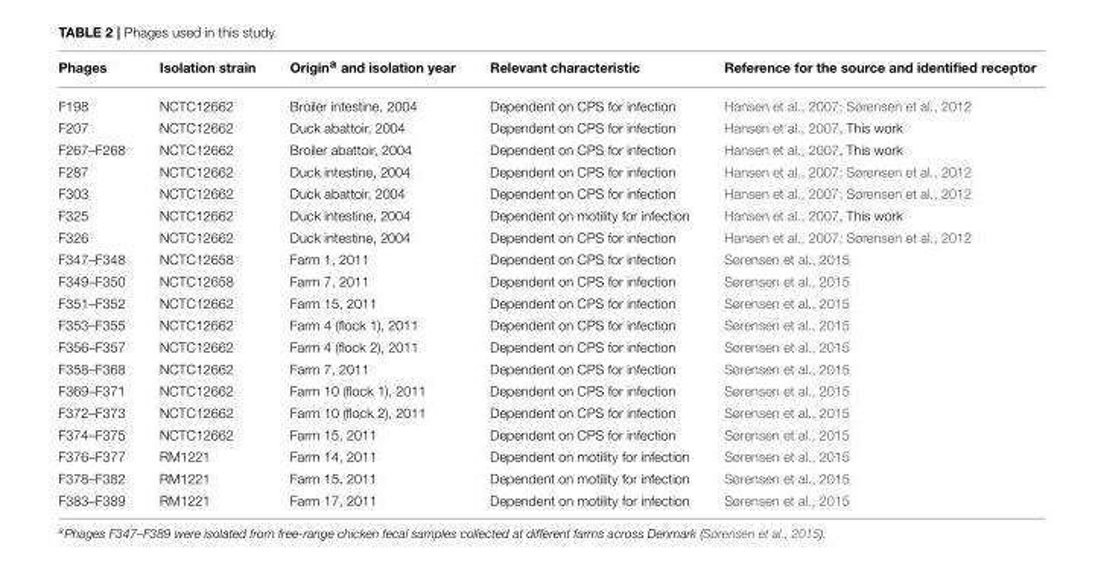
<table><thead><tr><td>Phages</td><td>Isolation strain</td><td>Origin<sup>a</sup> and isolation year</td><td>Relevant characteristic</td><td>Reference for the source and identified receptor</td></tr></thead><tbody><tr><td>F198</td><td>NCTC12662</td><td>Broiler intestine, 2004</td><td>Dependent on CPS for infection</td><td>Hansen et al., 2007; Sørensen et al., 2012</td></tr><tr><td>F207</td><td>NCTC12662</td><td>Duck abattoir, 2004</td><td>Dependent on CPS for infection</td><td>Hansen et al., 2007, This work</td></tr><tr><td>F267–F268</td><td>NCTC12662</td><td>Broiler abattoir, 2004</td><td>Dependent on CPS for infection</td><td>Hansen et al., 2007, This work</td></tr><tr><td>F287</td><td>NCTC12662</td><td>Duck intestine, 2004</td><td>Dependent on CPS for infection</td><td>Hansen et al., 2007; Sørensen et al., 2012</td></tr><tr><td>F303</td><td>NCTC12662</td><td>Duck abattoir, 2004</td><td>Dependent on CPS for infection</td><td>Hansen et al., 2007; Sørensen et al., 2012</td></tr><tr><td>F325</td><td>NCTC12662</td><td>Duck intestine, 2004</td><td>Dependent on motility for infection</td><td>Hansen et al., 2007, This work</td></tr><tr><td>F326</td><td>NCTC12662</td><td>Duck intestine, 2004</td><td>Dependent on CPS for infection</td><td>Hansen et al., 2007; Sørensen et al., 2012</td></tr><tr><td>F347–F348</td><td>NCTC12658</td><td>Farm 1, 2011</td><td>Dependent on CPS for infection</td><td>Sørensen et al., 2015</td></tr><tr><td>F349–F350</td><td>NCTC12658</td><td>Farm 7, 2011</td><td>Dependent on CPS for infection</td><td>Sørensen et al., 2015</td></tr><tr><td>F351–F352</td><td>NCTC12662</td><td>Farm 15, 2011</td><td>Dependent on CPS for infection</td><td>Sørensen et al., 2015</td></tr><tr><td>F353–F355</td><td>NCTC12662</td><td>Farm 4 (flock 1), 2011</td><td>Dependent on CPS for infection</td><td>Sørensen et al., 2015</td></tr><tr><td>F356–F357</td><td>NCTC12662</td><td>Farm 4 (flock 2), 2011</td><td>Dependent on CPS for infection</td><td>Sørensen et al., 2015</td></tr><tr><td>F358–F368</td><td>NCTC12662</td><td>Farm 7, 2011</td><td>Dependent on CPS for infection</td><td>Sørensen et al., 2015</td></tr><tr><td>F369–F371</td><td>NCTC12662</td><td>Farm 10 (flock 1), 2011</td><td>Dependent on CPS for infection</td><td>Sørensen et al., 2015</td></tr><tr><td>F372–F373</td><td>NCTC12662</td><td>Farm 10 (flock 2), 2011</td><td>Dependent on CPS for infection</td><td>Sørensen et al., 2015</td></tr><tr><td>F374–F375</td><td>NCTC12662</td><td>Farm 15, 2011</td><td>Dependent on CPS for infection</td><td>Sørensen et al., 2015</td></tr><tr><td>F376–F377</td><td>RM1221</td><td>Farm 14, 2011</td><td>Dependent on motility for infection</td><td>Sørensen et al., 2015</td></tr><tr><td>F378–F382</td><td>RM1221</td><td>Farm 15, 2011</td><td>Dependent on motility for infection</td><td>Sørensen et al., 2015</td></tr><tr><td>F383–F389</td><td>RM1221</td><td>Farm 17, 2011</td><td>Dependent on motility for infection</td><td>Sørensen et al., 2015</td></tr></tbody></table>